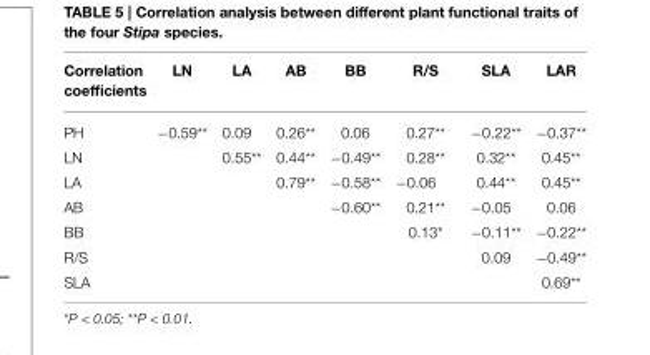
<table><thead><tr><td>Correlation coefficients</td><td>LN</td><td>LA</td><td>AB</td><td>BB</td><td>R/S</td><td>SLA</td><td>LAR</td></tr></thead><tbody><tr><td>PH</td><td>−0.59**</td><td>0.09</td><td>0.26**</td><td>0.06</td><td>0.27**</td><td>−0.22**</td><td>−0.37**</td></tr><tr><td>LN</td><td></td><td>0.55**</td><td>0.44**</td><td>−0.49**</td><td>0.28**</td><td>0.32**</td><td>0.45**</td></tr><tr><td>LA</td><td></td><td></td><td>0.79**</td><td>−0.58**</td><td>−0.06</td><td>0.44**</td><td>0.45**</td></tr><tr><td>AB</td><td></td><td></td><td></td><td>−0.60**</td><td>0.21**</td><td>−0.05</td><td>0.06</td></tr><tr><td>BB</td><td></td><td></td><td></td><td></td><td>0.13*</td><td>−0.11**</td><td>−0.22**</td></tr><tr><td>R/S</td><td></td><td></td><td></td><td></td><td></td><td>0.09</td><td>−0.49**</td></tr><tr><td>SLA</td><td></td><td></td><td></td><td></td><td></td><td></td><td>0.69**</td></tr></tbody></table>